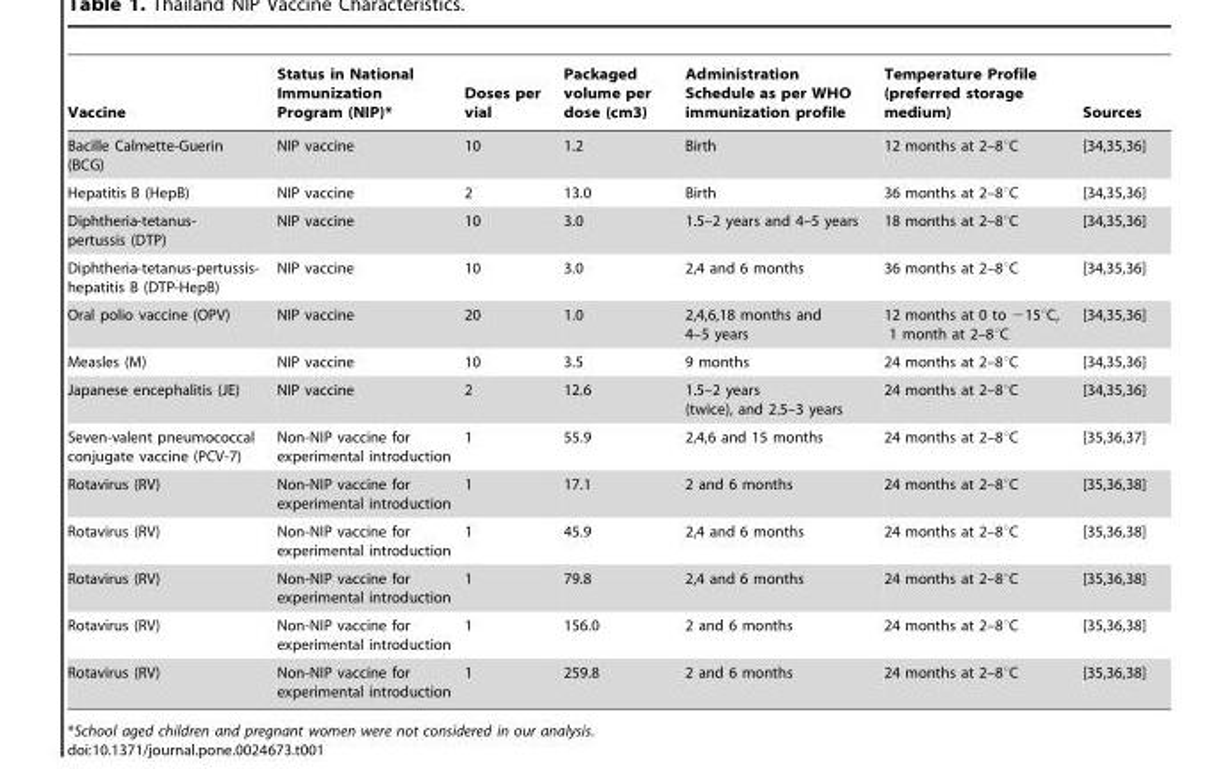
<table><thead><tr><td>Vaccine</td><td>Status in National Immunization Program (NIP)*</td><td>Doses per vial</td><td>Packaged volume per dose (cm3)</td><td>Administration Schedule as per WHO immunization profile</td><td>Temperature Profile (preferred storage medium)</td><td>Sources</td></tr></thead><tbody><tr><td>Bacille Calmette-Guerin (BCG)</td><td>NIP vaccine</td><td>10</td><td>1.2</td><td>Birth</td><td>12 months at 2–8°C</td><td>[34,35,36]</td></tr><tr><td>Hepatitis B (HepB)</td><td>NIP vaccine</td><td>2</td><td>13.0</td><td>Birth</td><td>36 months at 2–8°C</td><td>[34,35,36]</td></tr><tr><td>Diphtheria-tetanus- pertussis (DTP)</td><td>NIP vaccine</td><td>10</td><td>3.0</td><td>1.5–2 years and 4–5 years</td><td>18 months at 2–8°C</td><td>[34,35,36]</td></tr><tr><td>Diphtheria-tetanus-pertussis- hepatitis B (DTP-HepB)</td><td>NIP vaccine</td><td>10</td><td>3.0</td><td>2,4 and 6 months</td><td>36 months at 2–8°C</td><td>[34,35,36]</td></tr><tr><td>Oral polio vaccine (OPV)</td><td>NIP vaccine</td><td>20</td><td>1.0</td><td>2,4,6,18 months and 4–5 years</td><td>12 months at 0 to −15°C, 1 month at 2–8°C</td><td>[34,35,36]</td></tr><tr><td>Measles (M)</td><td>NIP vaccine</td><td>10</td><td>3.5</td><td>9 months</td><td>24 months at 2–8°C</td><td>[34,35,36]</td></tr><tr><td>Japanese encephalitis (JE)</td><td>NIP vaccine</td><td>2</td><td>12.6</td><td>1.5–2 years (twice), and 2.5–3 years</td><td>24 months at 2–8°C</td><td>[34,35,36]</td></tr><tr><td>Seven-valent pneumococcal conjugate vaccine (PCV-7)</td><td>Non-NIP vaccine for experimental introduction</td><td>1</td><td>55.9</td><td>2,4,6 and 15 months</td><td>24 months at 2–8°C</td><td>[35,36,37]</td></tr><tr><td>Rotavirus (RV)</td><td>Non-NIP vaccine for experimental introduction</td><td>1</td><td>17.1</td><td>2 and 6 months</td><td>24 months at 2–8°C</td><td>[35,36,38]</td></tr><tr><td>Rotavirus (RV)</td><td>Non-NIP vaccine for experimental introduction</td><td>1</td><td>45.9</td><td>2,4 and 6 months</td><td>24 months at 2–8°C</td><td>[35,36,38]</td></tr><tr><td>Rotavirus (RV)</td><td>Non-NIP vaccine for experimental introduction</td><td>1</td><td>79.8</td><td>2,4 and 6 months</td><td>24 months at 2–8°C</td><td>[35,36,38]</td></tr><tr><td>Rotavirus (RV)</td><td>Non-NIP vaccine for experimental introduction</td><td>1</td><td>156.0</td><td>2 and 6 months</td><td>24 months at 2–8°C</td><td>[35,36,38]</td></tr><tr><td>Rotavirus (RV)</td><td>Non-NIP vaccine for experimental introduction</td><td>1</td><td>259.8</td><td>2 and 6 months</td><td>24 months at 2–8°C</td><td>[35,36,38]</td></tr></tbody></table>